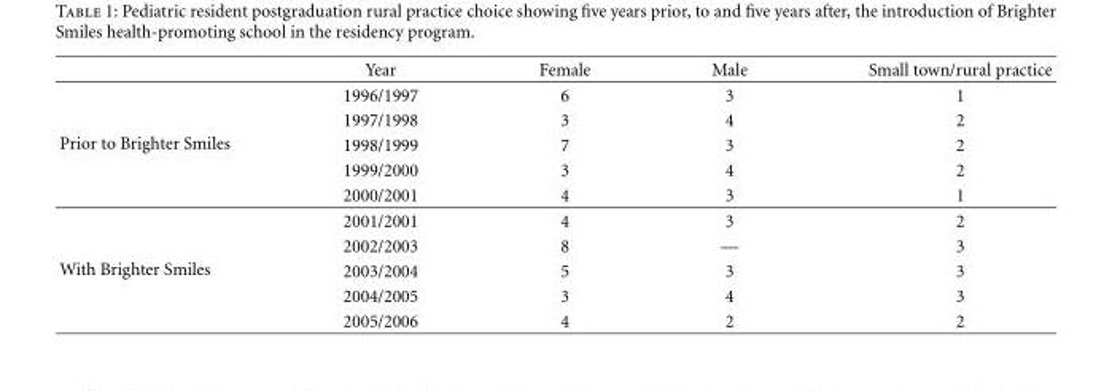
<table><thead><tr><td></td><td>Year</td><td>Female</td><td>Male</td><td>Small town/rural practice</td></tr></thead><tbody><tr><td rowspan="5">Prior to Brighter Smiles</td><td>1996/1997</td><td>6</td><td>3</td><td>1</td></tr><tr><td>1997/1998</td><td>3</td><td>4</td><td>2</td></tr><tr><td>1998/1999</td><td>7</td><td>3</td><td>2</td></tr><tr><td>1999/2000</td><td>3</td><td>4</td><td>2</td></tr><tr><td>2000/2001</td><td>4</td><td>3</td><td>1</td></tr><tr><td rowspan="5">With Brighter Smiles</td><td>2001/2001</td><td>4</td><td>3</td><td>2</td></tr><tr><td>2002/2003</td><td>8</td><td>—</td><td>3</td></tr><tr><td>2003/2004</td><td>5</td><td>3</td><td>3</td></tr><tr><td>2004/2005</td><td>3</td><td>4</td><td>3</td></tr><tr><td>2005/2006</td><td>4</td><td>2</td><td>2</td></tr></tbody></table>